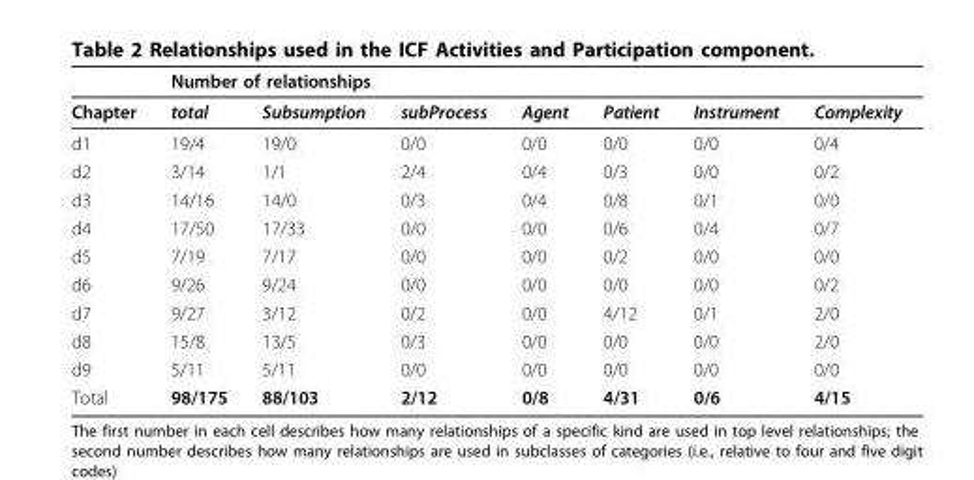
<table><thead><tr><td rowspan="2">Chapter</td><td colspan="7">Number of relationships</td></tr><tr><td>total</td><td>Subsumption</td><td>subProcess</td><td>Agent</td><td>Patient</td><td>Instrument</td><td>Complexity</td></tr></thead><tbody><tr><td>d1</td><td>19/4</td><td>19/0</td><td>0/0</td><td>0/0</td><td>0/0</td><td>0/0</td><td>0/4</td></tr><tr><td>d2</td><td>3/14</td><td>1/1</td><td>2/4</td><td>0/4</td><td>0/3</td><td>0/0</td><td>0/2</td></tr><tr><td>d3</td><td>14/16</td><td>14/0</td><td>0/3</td><td>0/4</td><td>0/8</td><td>0/1</td><td>0/0</td></tr><tr><td>d4</td><td>17/50</td><td>17/33</td><td>0/0</td><td>0/0</td><td>0/6</td><td>0/4</td><td>0/7</td></tr><tr><td>d5</td><td>7/19</td><td>7/17</td><td>0/0</td><td>0/0</td><td>0/2</td><td>0/0</td><td>0/0</td></tr><tr><td>d6</td><td>9/26</td><td>9/24</td><td>0/0</td><td>0/0</td><td>0/0</td><td>0/0</td><td>0/2</td></tr><tr><td>d7</td><td>9/27</td><td>3/12</td><td>0/2</td><td>0/0</td><td>4/12</td><td>0/1</td><td>2/0</td></tr><tr><td>d8</td><td>15/8</td><td>13/5</td><td>0/3</td><td>0/0</td><td>0/0</td><td>0/0</td><td>2/0</td></tr><tr><td>d9</td><td>5/11</td><td>5/11</td><td>0/0</td><td>0/0</td><td>0/0</td><td>0/0</td><td>0/0</td></tr><tr><td>Total</td><td>98/175</td><td>88/103</td><td>2/12</td><td>0/8</td><td>4/31</td><td>0/6</td><td>4/15</td></tr></tbody></table>